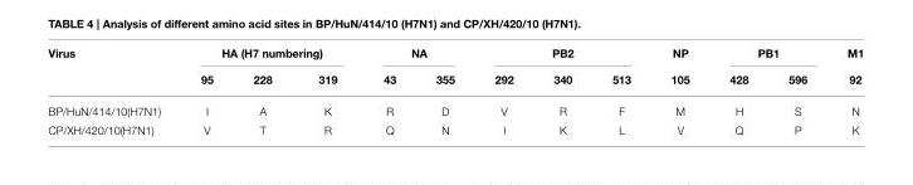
<table><thead><tr><td rowspan="2">Virus</td><td colspan="3">HA (H7 numbering)</td><td colspan="2">NA</td><td colspan="3">PB2</td><td rowspan="2">NP 105</td><td colspan="2">PB1</td><td rowspan="2">M1 92</td></tr><tr><td>95</td><td>228</td><td>319</td><td>43</td><td>355</td><td>292</td><td>340</td><td>513</td><td>428</td><td>596</td></tr></thead><tbody><tr><td>BP/HuN/414/10(H7N1)</td><td>I</td><td>A</td><td>K</td><td>R</td><td>D</td><td>V</td><td>R</td><td>F</td><td>M</td><td>H</td><td>S</td><td>N</td></tr><tr><td>CP/XH/420/10(H7N1)</td><td>V</td><td>T</td><td>R</td><td>Q</td><td>N</td><td>I</td><td>K</td><td>L</td><td>V</td><td>Q</td><td>P</td><td>K</td></tr></tbody></table>